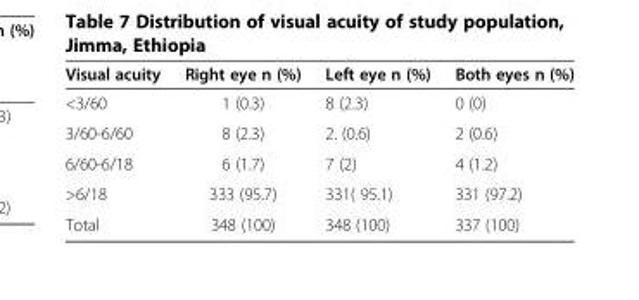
<table><thead><tr><td>Visual acuity</td><td>Right eye n (%)</td><td>Left eye n (%)</td><td>Both eyes n (%)</td></tr></thead><tbody><tr><td>&lt;3/60</td><td>1 (0.3)</td><td>8 (2.3)</td><td>0 (0)</td></tr><tr><td>3/60-6/60</td><td>8 (2.3)</td><td>2. (0.6)</td><td>2 (0.6)</td></tr><tr><td>6/60-6/18</td><td>6 (1.7)</td><td>7 (2)</td><td>4 (1.2)</td></tr><tr><td>&gt;6/18</td><td>333 (95.7)</td><td>331( 95.1)</td><td>331 (97.2)</td></tr><tr><td>Total</td><td>348 (100)</td><td>348 (100)</td><td>337 (100)</td></tr></tbody></table>